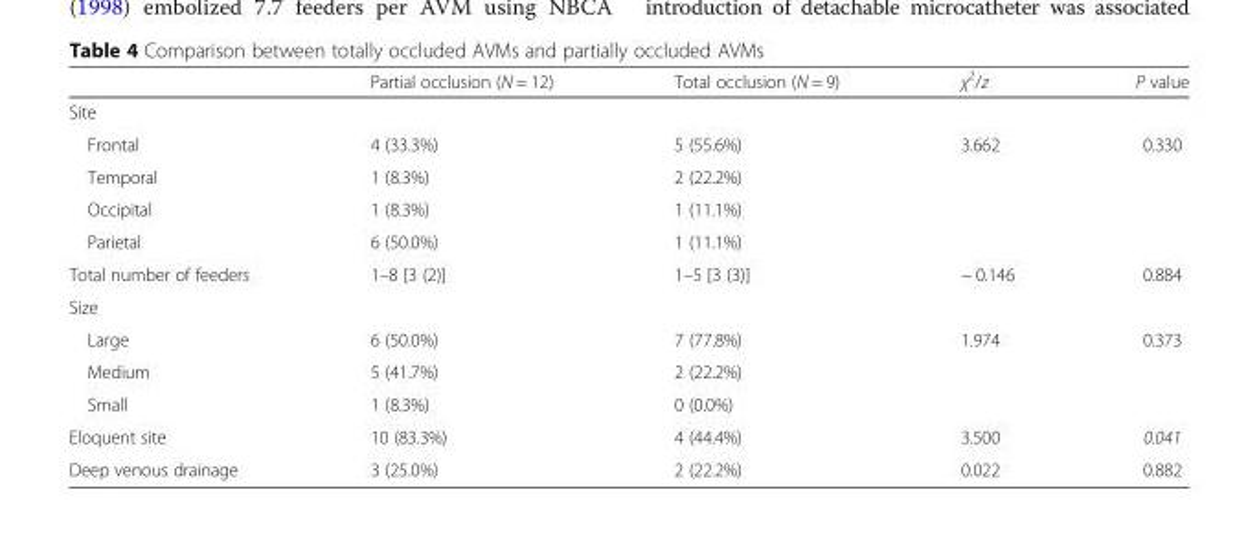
<table><thead><tr><td></td><td>Partial occlusion (N = 12)</td><td>Total occlusion (N = 9)</td><td>χ<sup>2</sup>/z</td><td>P value</td></tr></thead><tbody><tr><td colspan="5">Site</td></tr><tr><td>Frontal</td><td>4 (33.3%)</td><td>5 (55.6%)</td><td rowspan="4">3.662</td><td rowspan="4">0.330</td></tr><tr><td>Temporal</td><td>1 (8.3%)</td><td>2 (22.2%)</td></tr><tr><td>Occipital</td><td>1 (8.3%)</td><td>1 (11.1%)</td></tr><tr><td>Parietal</td><td>6 (50.0%)</td><td>1 (11.1%)</td></tr><tr><td>Total number of feeders</td><td>1–8 [3 (2)]</td><td>1–5 [3 (3)]</td><td>− 0.146</td><td>0.884</td></tr><tr><td colspan="5">Size</td></tr><tr><td>Large</td><td>6 (50.0%)</td><td>7 (77.8%)</td><td rowspan="3">1.974</td><td rowspan="3">0.373</td></tr><tr><td>Medium</td><td>5 (41.7%)</td><td>2 (22.2%)</td></tr><tr><td>Small</td><td>1 (8.3%)</td><td>0 (0.0%)</td></tr><tr><td>Eloquent site</td><td>10 (83.3%)</td><td>4 (44.4%)</td><td>3.500</td><td>0.041</td></tr><tr><td>Deep venous drainage</td><td>3 (25.0%)</td><td>2 (22.2%)</td><td>0.022</td><td>0.882</td></tr></tbody></table>